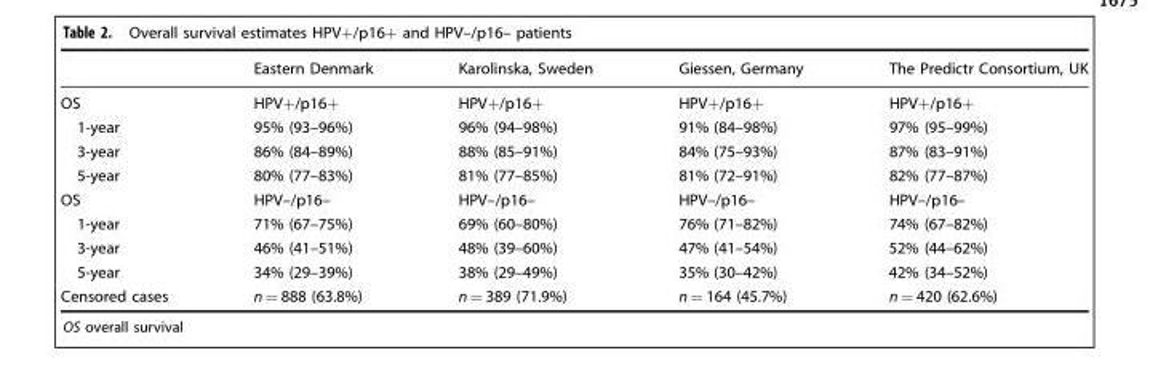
<table><thead><tr><td></td><td>Eastern Denmark</td><td>Karolinska, Sweden</td><td>Giessen, Germany</td><td>The Predictr Consortium, UK</td></tr></thead><tbody><tr><td>OS</td><td>HPV+/p16+</td><td>HPV+/p16+</td><td>HPV+/p16+</td><td>HPV+/p16+</td></tr><tr><td>1-year</td><td>95% (93–96%)</td><td>96% (94–98%)</td><td>91% (84–98%)</td><td>97% (95–99%)</td></tr><tr><td>3-year</td><td>86% (84–89%)</td><td>88% (85–91%)</td><td>84% (75–93%)</td><td>87% (83–91%)</td></tr><tr><td>5-year</td><td>80% (77–83%)</td><td>81% (77–85%)</td><td>81% (72–91%)</td><td>82% (77–87%)</td></tr><tr><td>OS</td><td>HPV–/p16–</td><td>HPV–/p16–</td><td>HPV–/p16–</td><td>HPV–/p16–</td></tr><tr><td>1-year</td><td>71% (67–75%)</td><td>69% (60–80%)</td><td>76% (71–82%)</td><td>74% (67–82%)</td></tr><tr><td>3-year</td><td>46% (41–51%)</td><td>48% (39–60%)</td><td>47% (41–54%)</td><td>52% (44–62%)</td></tr><tr><td>5-year</td><td>34% (29–39%)</td><td>38% (29–49%)</td><td>35% (30–42%)</td><td>42% (34–52%)</td></tr><tr><td>Censored cases</td><td>n = 888 (63.8%)</td><td>n = 389 (71.9%)</td><td>n = 164 (45.7%)</td><td>n = 420 (62.6%)</td></tr></tbody></table>